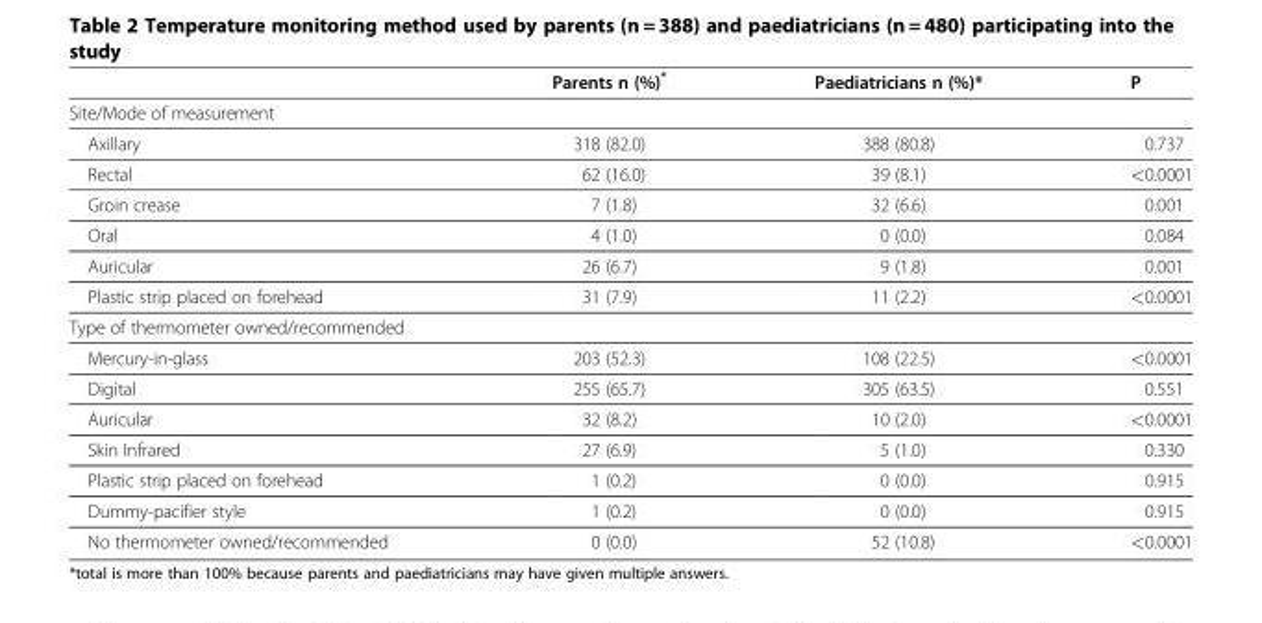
<table><thead><tr><td></td><td>Parents n (%)*</td><td>Paediatricians n (%)*</td><td>P</td></tr></thead><tbody><tr><td colspan="4">Site/Mode of measurement</td></tr><tr><td>Axillary</td><td>318 (82.0)</td><td>388 (80.8)</td><td>0.737</td></tr><tr><td>Rectal</td><td>62 (16.0)</td><td>39 (8.1)</td><td>&lt;0.0001</td></tr><tr><td>Groin crease</td><td>7 (1.8)</td><td>32 (6.6)</td><td>0.001</td></tr><tr><td>Oral</td><td>4 (1.0)</td><td>0 (0.0)</td><td>0.084</td></tr><tr><td>Auricular</td><td>26 (6.7)</td><td>9 (1.8)</td><td>0.001</td></tr><tr><td>Plastic strip placed on forehead</td><td>31 (7.9)</td><td>11 (2.2)</td><td>&lt;0.0001</td></tr><tr><td colspan="4">Type of thermometer owned/recommended</td></tr><tr><td>Mercury-in-glass</td><td>203 (52.3)</td><td>108 (22.5)</td><td>&lt;0.0001</td></tr><tr><td>Digital</td><td>255 (65.7)</td><td>305 (63.5)</td><td>0.551</td></tr><tr><td>Auricular</td><td>32 (8.2)</td><td>10 (2.0)</td><td>&lt;0.0001</td></tr><tr><td>Skin Infrared</td><td>27 (6.9)</td><td>5 (1.0)</td><td>0.330</td></tr><tr><td>Plastic strip placed on forehead</td><td>1 (0.2)</td><td>0 (0.0)</td><td>0.915</td></tr><tr><td>Dummy-pacifier style</td><td>1 (0.2)</td><td>0 (0.0)</td><td>0.915</td></tr><tr><td>No thermometer owned/recommended</td><td>0 (0.0)</td><td>52 (10.8)</td><td>&lt;0.0001</td></tr></tbody></table>